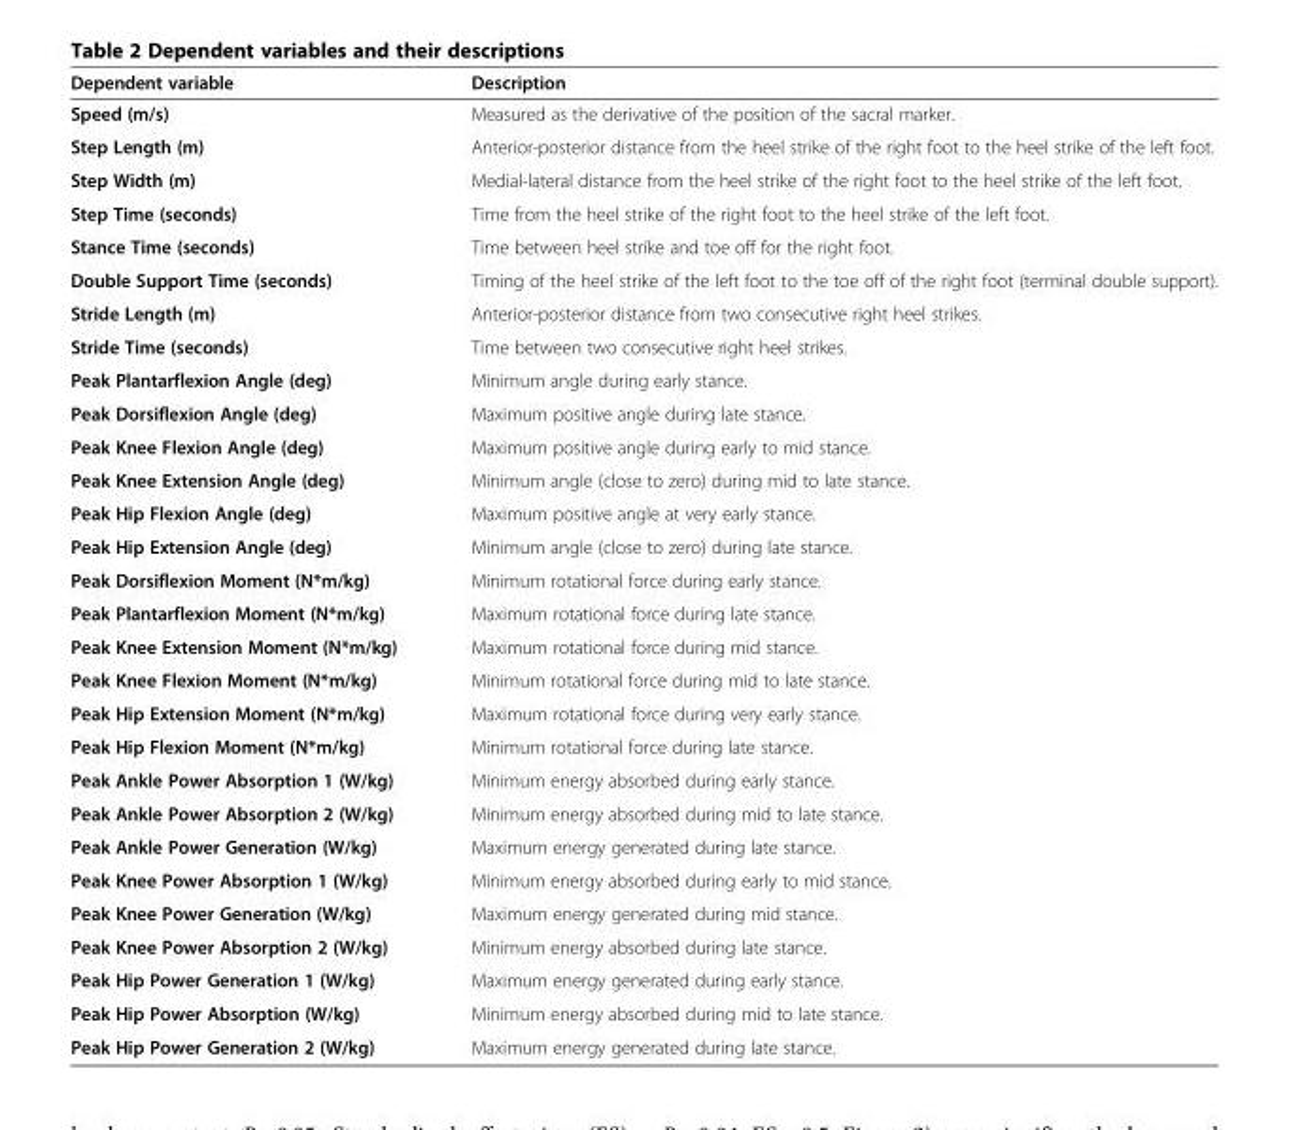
<table><thead><tr><td>Dependent variable</td><td>Description</td></tr></thead><tbody><tr><td>Speed (m/s)</td><td>Measured as the derivative of the position of the sacral marker.</td></tr><tr><td>Step Length (m)</td><td>Anterior-posterior distance from the heel strike of the right foot to the heel strike of the left foot.</td></tr><tr><td>Step Width (m)</td><td>Medial-lateral distance from the heel strike of the right foot to the heel strike of the left foot.</td></tr><tr><td>Step Time (seconds)</td><td>Time from the heel strike of the right foot to the heel strike of the left foot.</td></tr><tr><td>Stance Time (seconds)</td><td>Time between heel strike and toe off for the right foot.</td></tr><tr><td>Double Support Time (seconds)</td><td>Timing of the heel strike of the left foot to the toe off of the right foot (terminal double support).</td></tr><tr><td>Stride Length (m)</td><td>Anterior-posterior distance from two consecutive right heel strikes.</td></tr><tr><td>Stride Time (seconds)</td><td>Time between two consecutive right heel strikes.</td></tr><tr><td>Peak Plantarflexion Angle (deg)</td><td>Minimum angle during early stance.</td></tr><tr><td>Peak Dorsiflexion Angle (deg)</td><td>Maximum positive angle during late stance.</td></tr><tr><td>Peak Knee Flexion Angle (deg)</td><td>Maximum positive angle during early to mid stance.</td></tr><tr><td>Peak Knee Extension Angle (deg)</td><td>Minimum angle (close to zero) during mid to late stance.</td></tr><tr><td>Peak Hip Flexion Angle (deg)</td><td>Maximum positive angle at very early stance.</td></tr><tr><td>Peak Hip Extension Angle (deg)</td><td>Minimum angle (close to zero) during late stance.</td></tr><tr><td>Peak Dorsiflexion Moment (N*m/kg)</td><td>Minimum rotational force during early stance.</td></tr><tr><td>Peak Plantarflexion Moment (N*m/kg)</td><td>Maximum rotational force during late stance.</td></tr><tr><td>Peak Knee Extension Moment (N*m/kg)</td><td>Maximum rotational force during mid stance.</td></tr><tr><td>Peak Knee Flexion Moment (N*m/kg)</td><td>Minimum rotational force during mid to late stance.</td></tr><tr><td>Peak Hip Extension Moment (N*m/kg)</td><td>Maximum rotational force during very early stance.</td></tr><tr><td>Peak Hip Flexion Moment (N*m/kg)</td><td>Minimum rotational force during late stance.</td></tr><tr><td>Peak Ankle Power Absorption 1 (W/kg)</td><td>Minimum energy absorbed during early stance.</td></tr><tr><td>Peak Ankle Power Absorption 2 (W/kg)</td><td>Minimum energy absorbed during mid to late stance.</td></tr><tr><td>Peak Ankle Power Generation (W/kg)</td><td>Maximum energy generated during late stance.</td></tr><tr><td>Peak Knee Power Absorption 1 (W/kg)</td><td>Minimum energy absorbed during early to mid stance.</td></tr><tr><td>Peak Knee Power Generation (W/kg)</td><td>Maximum energy generated during mid stance.</td></tr><tr><td>Peak Knee Power Absorption 2 (W/kg)</td><td>Minimum energy absorbed during late stance.</td></tr><tr><td>Peak Hip Power Generation 1 (W/kg)</td><td>Maximum energy generated during early stance.</td></tr><tr><td>Peak Hip Power Absorption (W/kg)</td><td>Minimum energy absorbed during mid to late stance.</td></tr><tr><td>Peak Hip Power Generation 2 (W/kg)</td><td>Maximum energy generated during late stance.</td></tr></tbody></table>